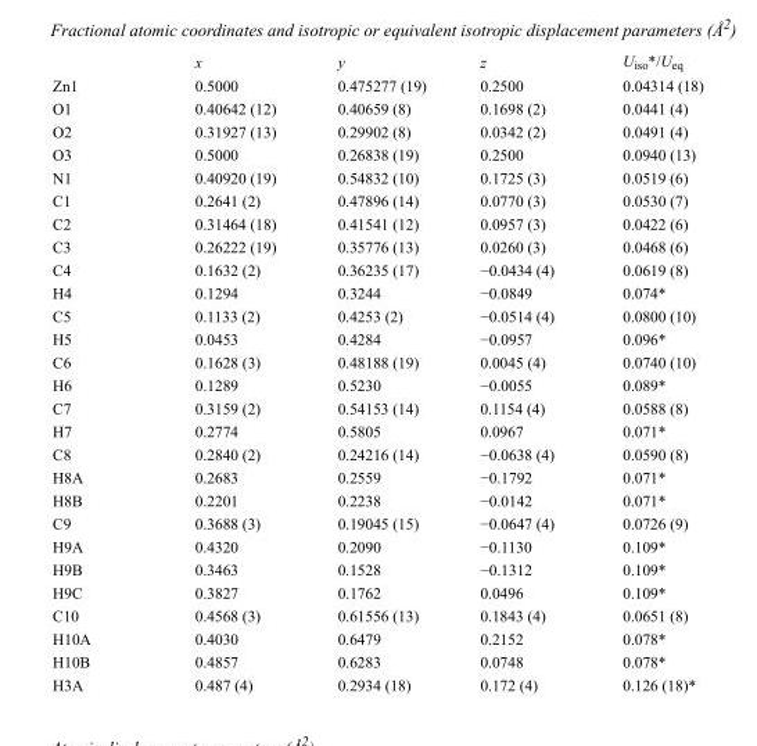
<table><thead><tr><td></td><td>x</td><td>y</td><td>z</td><td>U<sub>iso</sub>*/U<sub>eq</sub></td></tr></thead><tbody><tr><td>Zn1</td><td>0.5000</td><td>0.475277 (19)</td><td>0.2500</td><td>0.04314 (18)</td></tr><tr><td>O1</td><td>0.40642 (12)</td><td>0.40659 (8)</td><td>0.1698 (2)</td><td>0.0441 (4)</td></tr><tr><td>O2</td><td>0.31927 (13)</td><td>0.29902 (8)</td><td>0.0342 (2)</td><td>0.0491 (4)</td></tr><tr><td>O3</td><td>0.5000</td><td>0.26838 (19)</td><td>0.2500</td><td>0.0940 (13)</td></tr><tr><td>N1</td><td>0.40920 (19)</td><td>0.54832 (10)</td><td>0.1725 (3)</td><td>0.0519 (6)</td></tr><tr><td>C1</td><td>0.2641 (2)</td><td>0.47896 (14)</td><td>0.0770 (3)</td><td>0.0530 (7)</td></tr><tr><td>C2</td><td>0.31464 (18)</td><td>0.41541 (12)</td><td>0.0957 (3)</td><td>0.0422 (6)</td></tr><tr><td>C3</td><td>0.26222 (19)</td><td>0.35776 (13)</td><td>0.0260 (3)</td><td>0.0468 (6)</td></tr><tr><td>C4</td><td>0.1632 (2)</td><td>0.36235 (17)</td><td>−0.0434 (4)</td><td>0.0619 (8)</td></tr><tr><td>H4</td><td>0.1294</td><td>0.3244</td><td>−0.0849</td><td>0.074*</td></tr><tr><td>C5</td><td>0.1133 (2)</td><td>0.4253 (2)</td><td>−0.0514 (4)</td><td>0.0800 (10)</td></tr><tr><td>H5</td><td>0.0453</td><td>0.4284</td><td>−0.0957</td><td>0.096*</td></tr><tr><td>C6</td><td>0.1628 (3)</td><td>0.48188 (19)</td><td>0.0045 (4)</td><td>0.0740 (10)</td></tr><tr><td>H6</td><td>0.1289</td><td>0.5230</td><td>−0.0055</td><td>0.089*</td></tr><tr><td>C7</td><td>0.3159 (2)</td><td>0.54153 (14)</td><td>0.1154 (4)</td><td>0.0588 (8)</td></tr><tr><td>H7</td><td>0.2774</td><td>0.5805</td><td>0.0967</td><td>0.071*</td></tr><tr><td>C8</td><td>0.2840 (2)</td><td>0.24216 (14)</td><td>−0.0638 (4)</td><td>0.0590 (8)</td></tr><tr><td>H8A</td><td>0.2683</td><td>0.2559</td><td>−0.1792</td><td>0.071*</td></tr><tr><td>H8B</td><td>0.2201</td><td>0.2238</td><td>−0.0142</td><td>0.071*</td></tr><tr><td>C9</td><td>0.3688 (3)</td><td>0.19045 (15)</td><td>−0.0647 (4)</td><td>0.0726 (9)</td></tr><tr><td>H9A</td><td>0.4320</td><td>0.2090</td><td>−0.1130</td><td>0.109*</td></tr><tr><td>H9B</td><td>0.3463</td><td>0.1528</td><td>−0.1312</td><td>0.109*</td></tr><tr><td>H9C</td><td>0.3827</td><td>0.1762</td><td>0.0496</td><td>0.109*</td></tr><tr><td>C10</td><td>0.4568 (3)</td><td>0.61556 (13)</td><td>0.1843 (4)</td><td>0.0651 (8)</td></tr><tr><td>H10A</td><td>0.4030</td><td>0.6479</td><td>0.2152</td><td>0.078*</td></tr><tr><td>H10B</td><td>0.4857</td><td>0.6283</td><td>0.0748</td><td>0.078*</td></tr><tr><td>H3A</td><td>0.487 (4)</td><td>0.2934 (18)</td><td>0.172 (4)</td><td>0.126 (18)*</td></tr></tbody></table>